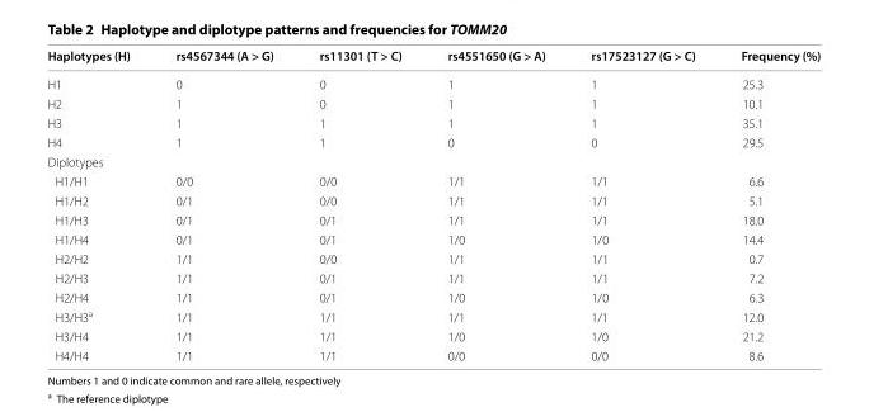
<table><thead><tr><td>Haplotypes (H)</td><td>rs4567344 (A &gt; G)</td><td>rs11301 (T &gt; C)</td><td>rs4551650 (G &gt; A)</td><td>rs17523127 (G &gt; C)</td><td>Frequency (%)</td></tr></thead><tbody><tr><td>H1</td><td>0</td><td>0</td><td>1</td><td>1</td><td>25.3</td></tr><tr><td>H2</td><td>1</td><td>0</td><td>1</td><td>1</td><td>10.1</td></tr><tr><td>H3</td><td>1</td><td>1</td><td>1</td><td>1</td><td>35.1</td></tr><tr><td>H4</td><td>1</td><td>1</td><td>0</td><td>0</td><td>29.5</td></tr><tr><td colspan="6">Diplotypes</td></tr><tr><td>H1/H1</td><td>0/0</td><td>0/0</td><td>1/1</td><td>1/1</td><td>6.6</td></tr><tr><td>H1/H2</td><td>0/1</td><td>0/0</td><td>1/1</td><td>1/1</td><td>5.1</td></tr><tr><td>H1/H3</td><td>0/1</td><td>0/1</td><td>1/1</td><td>1/1</td><td>18.0</td></tr><tr><td>H1/H4</td><td>0/1</td><td>0/1</td><td>1/0</td><td>1/0</td><td>14.4</td></tr><tr><td>H2/H2</td><td>1/1</td><td>0/0</td><td>1/1</td><td>1/1</td><td>0.7</td></tr><tr><td>H2/H3</td><td>1/1</td><td>0/1</td><td>1/1</td><td>1/1</td><td>7.2</td></tr><tr><td>H2/H4</td><td>1/1</td><td>0/1</td><td>1/0</td><td>1/0</td><td>6.3</td></tr><tr><td>H3/H3<sup>a</sup></td><td>1/1</td><td>1/1</td><td>1/1</td><td>1/1</td><td>12.0</td></tr><tr><td>H3/H4</td><td>1/1</td><td>1/1</td><td>1/0</td><td>1/0</td><td>21.2</td></tr><tr><td>H4/H4</td><td>1/1</td><td>1/1</td><td>0/0</td><td>0/0</td><td>8.6</td></tr></tbody></table>